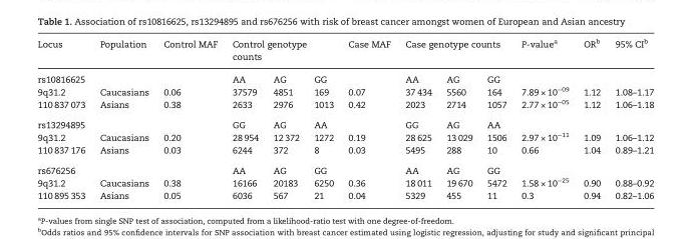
<table><thead><tr><td rowspan="2">Locus rs10816625</td><td rowspan="2">Population</td><td rowspan="2">Control MAF</td><td colspan="3">Control genotype counts</td><td rowspan="2">Case MAF</td><td colspan="3">Case genotype counts</td><td rowspan="2">P-value<sup>a</sup></td><td rowspan="2">OR<sup>b</sup></td><td rowspan="2">95% CI<sup>b</sup></td></tr><tr><td>AA</td><td>AG</td><td>GG</td><td>AA</td><td>AG</td><td>GG</td></tr></thead><tbody><tr><td>9q31.2</td><td>Caucasians</td><td>0.06</td><td>37579</td><td>4851</td><td>169</td><td>0.07</td><td>37 434</td><td>5560</td><td>164</td><td>7.89 × 10<sup>−09</sup></td><td>1.12</td><td>1.08–1.17</td></tr><tr><td>110 837 073</td><td>Asians</td><td>0.38</td><td>2633</td><td>2976</td><td>1013</td><td>0.42</td><td>2023</td><td>2714</td><td>1057</td><td>2.77 × 10<sup>−05</sup></td><td>1.12</td><td>1.06–1.18</td></tr><tr><td>rs13294895</td><td></td><td></td><td>GG</td><td>AG</td><td>AA</td><td></td><td>GG</td><td>AG</td><td>AA</td><td></td><td></td><td></td></tr><tr><td>9q31.2</td><td>Caucasians</td><td>0.20</td><td>28 954</td><td>12 372</td><td>1272</td><td>0.19</td><td>28 625</td><td>13 029</td><td>1506</td><td>2.97 × 10<sup>−11</sup></td><td>1.09</td><td>1.06–1.12</td></tr><tr><td>110 837 176</td><td>Asians</td><td>0.03</td><td>6244</td><td>372</td><td>8</td><td>0.03</td><td>5495</td><td>288</td><td>10</td><td>0.66</td><td>1.04</td><td>0.89–1.21</td></tr><tr><td>rs676256</td><td></td><td></td><td>AA</td><td>AG</td><td>GG</td><td></td><td>AA</td><td>AG</td><td>GG</td><td></td><td></td><td></td></tr><tr><td>9q31.2</td><td>Caucasians</td><td>0.38</td><td>16166</td><td>20183</td><td>6250</td><td>0.36</td><td>18 011</td><td>19 670</td><td>5472</td><td>1.58 × 10<sup>−25</sup></td><td>0.90</td><td>0.88–0.92</td></tr><tr><td>110 895 353</td><td>Asians</td><td>0.05</td><td>6036</td><td>567</td><td>21</td><td>0.04</td><td>5329</td><td>455</td><td>11</td><td>0.3</td><td>0.94</td><td>0.82–1.06</td></tr></tbody></table>